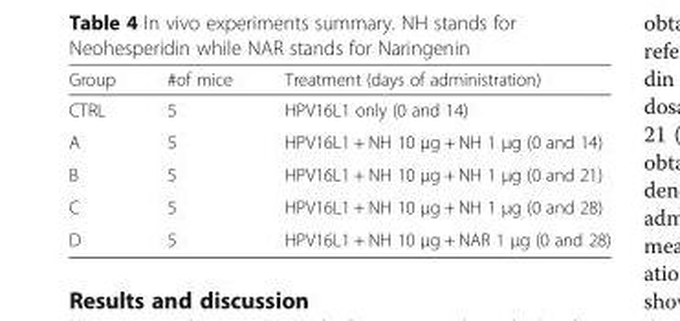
<table><thead><tr><td>Group</td><td>#of mice</td><td>Treatment (days of administration)</td></tr></thead><tbody><tr><td>CTRL</td><td>5</td><td>HPV16L1 only (0 and 14)</td></tr><tr><td>A</td><td>5</td><td>HPV16L1 + NH 10 μg + NH 1 μg (0 and 14)</td></tr><tr><td>B</td><td>5</td><td>HPV16L1 + NH 10 μg + NH 1 μg (0 and 21)</td></tr><tr><td>C</td><td>5</td><td>HPV16L1 + NH 10 μg + NH 1 μg (0 and 28)</td></tr><tr><td>D</td><td>5</td><td>HPV16L1 + NH 10 μg + NAR 1 μg (0 and 28)</td></tr></tbody></table>